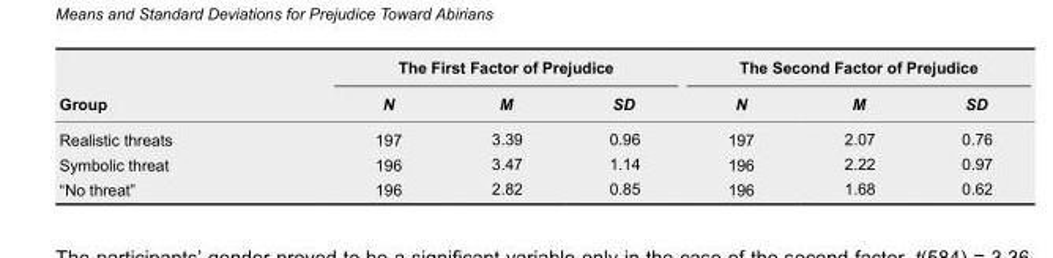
<table><thead><tr><td rowspan="2">Group</td><td colspan="3">The First Factor of Prejudice</td><td colspan="3">The Second Factor of Prejudice</td></tr><tr><td>N</td><td>M</td><td>SD</td><td>N</td><td>M</td><td>SD</td></tr></thead><tbody><tr><td>Realistic threats</td><td>197</td><td>3.39</td><td>0.96</td><td>197</td><td>2.07</td><td>0.76</td></tr><tr><td>Symbolic threat</td><td>196</td><td>3.47</td><td>1.14</td><td>196</td><td>2.22</td><td>0.97</td></tr><tr><td>“No threat”</td><td>196</td><td>2.82</td><td>0.85</td><td>196</td><td>1.68</td><td>0.62</td></tr></tbody></table>